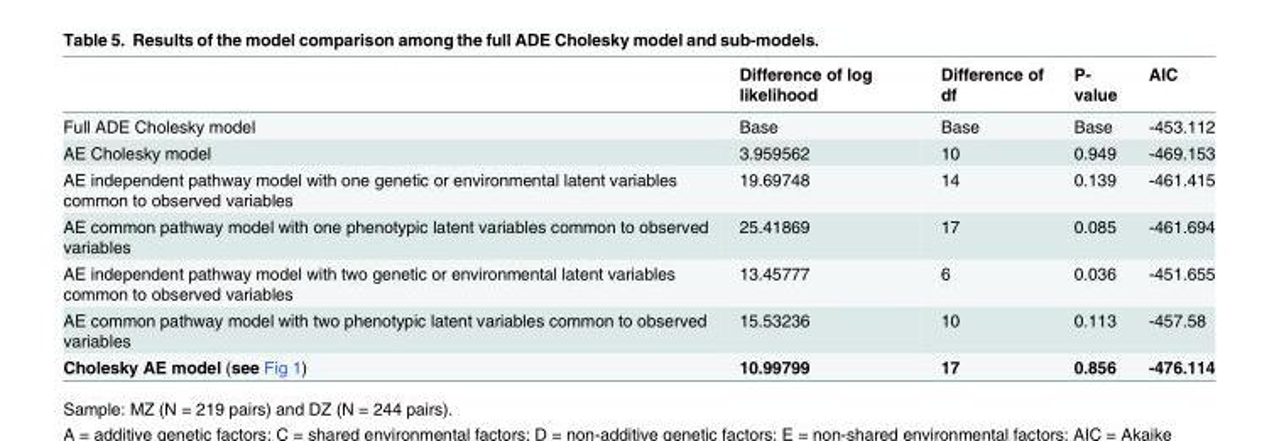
<table><thead><tr><td></td><td>Difference of log likelihood</td><td>Difference of df</td><td>P- value</td><td>AIC</td></tr></thead><tbody><tr><td>Full ADE Cholesky model</td><td>Base</td><td>Base</td><td>Base</td><td>-453.112</td></tr><tr><td>AE Cholesky model</td><td>3.959562</td><td>10</td><td>0.949</td><td>-469.153</td></tr><tr><td>AE independent pathway model with one genetic or environmental latent variables common to observed variables</td><td>19.69748</td><td>14</td><td>0.139</td><td>-461.415</td></tr><tr><td>AE common pathway model with one phenotypic latent variables common to observed variables</td><td>25.41869</td><td>17</td><td>0.085</td><td>-461.694</td></tr><tr><td>AE independent pathway model with two genetic or environmental latent variables common to observed variables</td><td>13.45777</td><td>6</td><td>0.036</td><td>-451.655</td></tr><tr><td>AE common pathway model with two phenotypic latent variables common to observed variables</td><td>15.53236</td><td>10</td><td>0.113</td><td>-457.58</td></tr><tr><td>Cholesky AE model (see Fig 1)</td><td>10.99799</td><td>17</td><td>0.856</td><td>-476.114</td></tr></tbody></table>